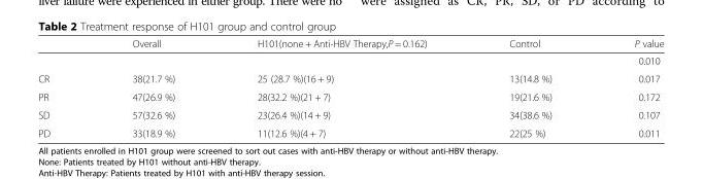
<table><thead><tr><td></td><td>Overall</td><td>H101(none + Anti-HBV Therapy,P = 0.162)</td><td>Control</td><td>P value</td></tr></thead><tbody><tr><td></td><td></td><td></td><td></td><td>0.010</td></tr><tr><td>CR</td><td>38(21.7 %)</td><td>25 (28.7 %)(16 + 9)</td><td>13(14.8 %)</td><td>0.017</td></tr><tr><td>PR</td><td>47(26.9 %)</td><td>28(32.2 %)(21 + 7)</td><td>19(21.6 %)</td><td>0.172</td></tr><tr><td>SD</td><td>57(32.6 %)</td><td>23(26.4 %)(14 + 9)</td><td>34(38.6 %)</td><td>0.107</td></tr><tr><td>PD</td><td>33(18.9 %)</td><td>11(12.6 %)(4 + 7)</td><td>22(25 %)</td><td>0.011</td></tr></tbody></table>